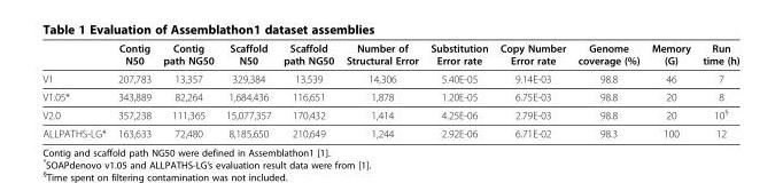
<table><thead><tr><td></td><td>Contig N50</td><td>Contig path NG50</td><td>Scaffold N50</td><td>Scaffold path NG50</td><td>Number of Structural Error</td><td>Substitution Error rate</td><td>Copy Number Error rate</td><td>Genome coverage (%)</td><td>Memory (G)</td><td>Run time (h)</td></tr></thead><tbody><tr><td>V1</td><td>207,783</td><td>13,357</td><td>329,384</td><td>13,539</td><td>14,306</td><td>5.40E-05</td><td>9.14E-03</td><td>98.8</td><td>46</td><td>7</td></tr><tr><td>V1.05*</td><td>343,889</td><td>82,264</td><td>1,684,436</td><td>116,651</td><td>1,878</td><td>1.20E-05</td><td>6.75E-03</td><td>98.8</td><td>20</td><td>8</td></tr><tr><td>V2.0</td><td>357,238</td><td>111,365</td><td>15,077,357</td><td>170,432</td><td>1,414</td><td>4.25E-06</td><td>2.79E-03</td><td>98.8</td><td>20</td><td>10<sup>§</sup></td></tr><tr><td>ALLPATHS-LG*</td><td>163,633</td><td>72,480</td><td>8,185,650</td><td>210,649</td><td>1,244</td><td>2.92E-06</td><td>6.71E-02</td><td>98.3</td><td>100</td><td>12</td></tr></tbody></table>